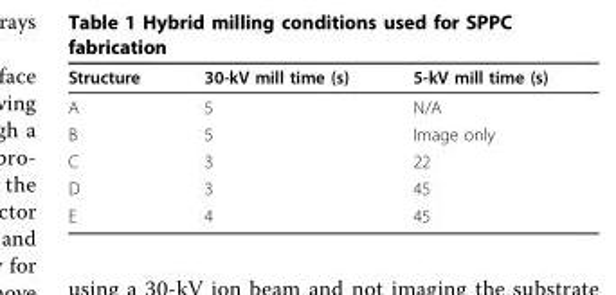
<table><thead><tr><td>Structure</td><td>30-kV mill time (s)</td><td>5-kV mill time (s)</td></tr></thead><tbody><tr><td>A</td><td>5</td><td>N/A</td></tr><tr><td>B</td><td>5</td><td>Image only</td></tr><tr><td>C</td><td>3</td><td>22</td></tr><tr><td>D</td><td>3</td><td>45</td></tr><tr><td>E</td><td>4</td><td>45</td></tr></tbody></table>